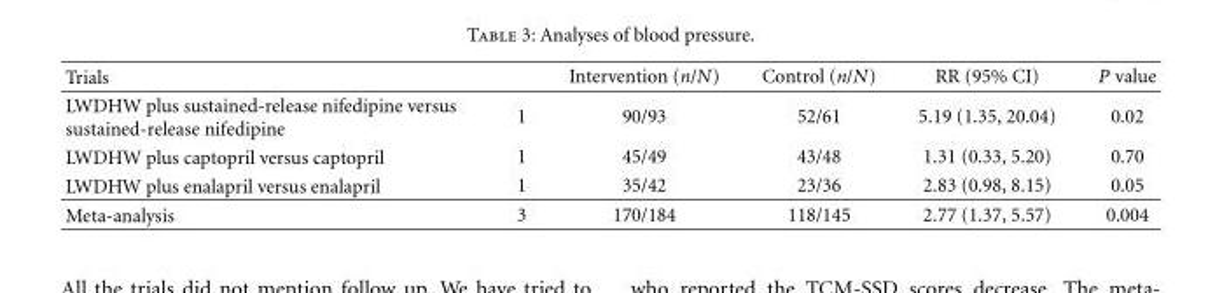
<table><thead><tr><td>Trials</td><td></td><td>Intervention (n/N)</td><td>Control (n/N)</td><td>RR (95% CI)</td><td>P value</td></tr></thead><tbody><tr><td>LWDHW plus sustained-release nifedipine versus sustained-release nifedipine</td><td>1</td><td>90/93</td><td>52/61</td><td>5.19 (1.35, 20.04)</td><td>0.02</td></tr><tr><td>LWDHW plus captopril versus captopril</td><td>1</td><td>45/49</td><td>43/48</td><td>1.31 (0.33, 5.20)</td><td>0.70</td></tr><tr><td>LWDHW plus enalapril versus enalapril</td><td>1</td><td>35/42</td><td>23/36</td><td>2.83 (0.98, 8.15)</td><td>0.05</td></tr><tr><td>Meta-analysis</td><td>3</td><td>170/184</td><td>118/145</td><td>2.77 (1.37, 5.57)</td><td>0.004</td></tr></tbody></table>